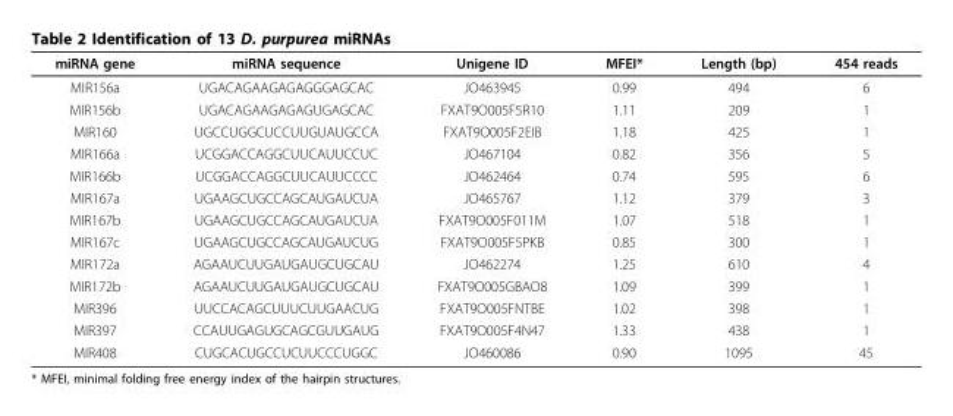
<table><thead><tr><td>miRNA gene</td><td>miRNA sequence</td><td>Unigene ID</td><td>MFEI*</td><td>Length (bp)</td><td>454 reads</td></tr></thead><tbody><tr><td>MIR156a</td><td>UGACAGAAGAGAGGGAGCAC</td><td>JO463945</td><td>0.99</td><td>494</td><td>6</td></tr><tr><td>MIR156b</td><td>UGACAGAAGAGAGUGAGCAC</td><td>FXAT9O005F5R10</td><td>1.11</td><td>209</td><td>1</td></tr><tr><td>MIR160</td><td>UGCCUGGCUCCUUGUAUGCCA</td><td>FXAT9O005F2EIB</td><td>1.18</td><td>425</td><td>1</td></tr><tr><td>MIR166a</td><td>UCGGACCAGGCUUCAUUCCUC</td><td>JO467104</td><td>0.82</td><td>356</td><td>5</td></tr><tr><td>MIR166b</td><td>UCGGACCAGGCUUCAUUCCCC</td><td>JO462464</td><td>0.74</td><td>595</td><td>6</td></tr><tr><td>MIR167a</td><td>UGAAGCUGCCAGCAUGAUCUA</td><td>JO465767</td><td>1.12</td><td>379</td><td>3</td></tr><tr><td>MIR167b</td><td>UGAAGCUGCCAGCAUGAUCUA</td><td>FXAT9O005F011M</td><td>1.07</td><td>518</td><td>1</td></tr><tr><td>MIR167c</td><td>UGAAGCUGCCAGCAUGAUCUG</td><td>FXAT9O005F5PKB</td><td>0.85</td><td>300</td><td>1</td></tr><tr><td>MIR172a</td><td>AGAAUCUUGAUGAUGCUGCAU</td><td>JO462274</td><td>1.25</td><td>610</td><td>4</td></tr><tr><td>MIR172b</td><td>AGAAUCUUGAUGAUGCUGCAU</td><td>FXAT9O005GBAO8</td><td>1.09</td><td>399</td><td>1</td></tr><tr><td>MIR396</td><td>UUCCACAGCUUUCUUGAACUG</td><td>FXAT9O005FNTBE</td><td>1.02</td><td>398</td><td>1</td></tr><tr><td>MIR397</td><td>CCAUUGAGUGCAGCGUUGAUG</td><td>FXAT9O005F4N47</td><td>1.33</td><td>438</td><td>1</td></tr><tr><td>MIR408</td><td>CUGCACUGCCUCUUCCCUGGC</td><td>JO460086</td><td>0.90</td><td>1095</td><td>45</td></tr></tbody></table>